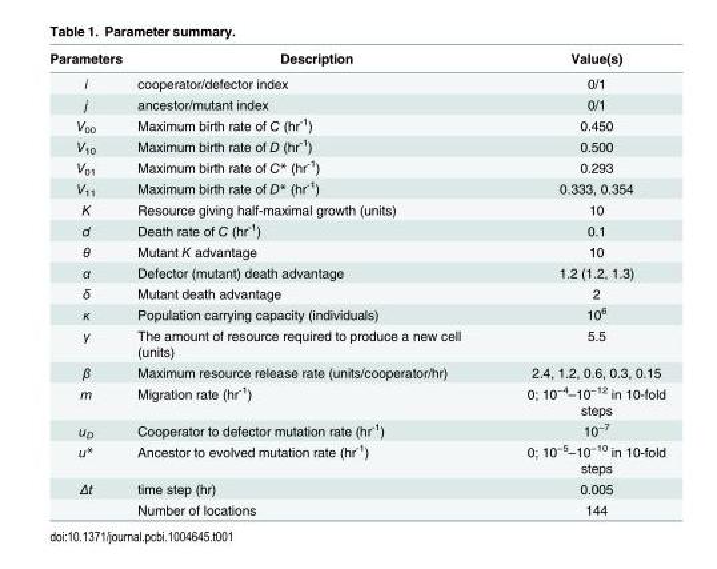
<table><thead><tr><td>Parameters</td><td>Description</td><td>Value(s)</td></tr></thead><tbody><tr><td>i</td><td>cooperator/defector index</td><td>0/1</td></tr><tr><td>j</td><td>ancestor/mutant index</td><td>0/1</td></tr><tr><td>V<sub>00</sub></td><td>Maximum birth rate of C (hr<sup>-1</sup>)</td><td>0.450</td></tr><tr><td>V<sub>10</sub></td><td>Maximum birth rate of D (hr<sup>-1</sup>)</td><td>0.500</td></tr><tr><td>V<sub>01</sub></td><td>Maximum birth rate of C* (hr<sup>-1</sup>)</td><td>0.293</td></tr><tr><td>V<sub>11</sub></td><td>Maximum birth rate of D* (hr<sup>-1</sup>)</td><td>0.333, 0.354</td></tr><tr><td>K</td><td>Resource giving half-maximal growth (units)</td><td>10</td></tr><tr><td>d</td><td>Death rate of C (hr<sup>-1</sup>)</td><td>0.1</td></tr><tr><td>θ</td><td>Mutant K advantage</td><td>10</td></tr><tr><td>α</td><td>Defector (mutant) death advantage</td><td>1.2 (1.2, 1.3)</td></tr><tr><td>δ</td><td>Mutant death advantage</td><td>2</td></tr><tr><td>κ</td><td>Population carrying capacity (individuals)</td><td>10<sup>6</sup></td></tr><tr><td>γ</td><td>The amount of resource required to produce a new cell (units)</td><td>5.5</td></tr><tr><td>β</td><td>Maximum resource release rate (units/cooperator/hr)</td><td>2.4, 1.2, 0.6, 0.3, 0.15</td></tr><tr><td>m</td><td>Migration rate (hr<sup>-1</sup>)</td><td>0; 10<sup>−4</sup>–10<sup>−12</sup> in 10-fold steps</td></tr><tr><td>u<sub>D</sub></td><td>Cooperator to defector mutation rate (hr<sup>-1</sup>)</td><td>10<sup>−7</sup></td></tr><tr><td>u*</td><td>Ancestor to evolved mutation rate (hr<sup>-1</sup>)</td><td>0; 10<sup>−5</sup>–10<sup>−10</sup> in 10-fold steps</td></tr><tr><td rowspan="2">Δt</td><td>time step (hr)</td><td>0.005</td></tr><tr><td>Number of locations</td><td>144</td></tr></tbody></table>